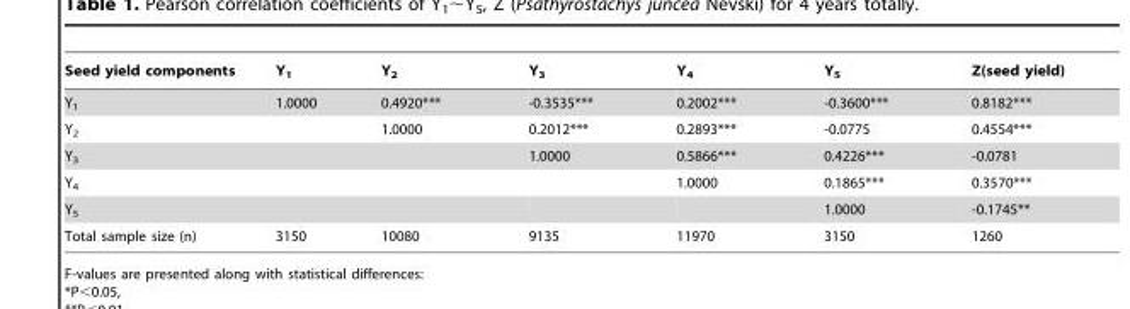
<table><thead><tr><td>Seed yield components</td><td>Y<sub>1</sub></td><td>Y<sub>2</sub></td><td>Y<sub>3</sub></td><td>Y<sub>4</sub></td><td>Y<sub>5</sub></td><td>Z(seed yield)</td></tr></thead><tbody><tr><td>Y<sub>1</sub></td><td>1.0000</td><td>0.4920***</td><td>-0.3535***</td><td>0.2002***</td><td>-0.3600***</td><td>0.8182***</td></tr><tr><td>Y<sub>2</sub></td><td></td><td>1.0000</td><td>0.2012***</td><td>0.2893***</td><td>-0.0775</td><td>0.4554***</td></tr><tr><td>Y<sub>3</sub></td><td></td><td></td><td>1.0000</td><td>0.5866***</td><td>0.4226***</td><td>-0.0781</td></tr><tr><td>Y<sub>4</sub></td><td></td><td></td><td></td><td>1.0000</td><td>0.1865***</td><td>0.3570***</td></tr><tr><td>Y<sub>5</sub></td><td></td><td></td><td></td><td></td><td>1.0000</td><td>-0.1745**</td></tr><tr><td>Total sample size (n)</td><td>3150</td><td>10080</td><td>9135</td><td>11970</td><td>3150</td><td>1260</td></tr></tbody></table>